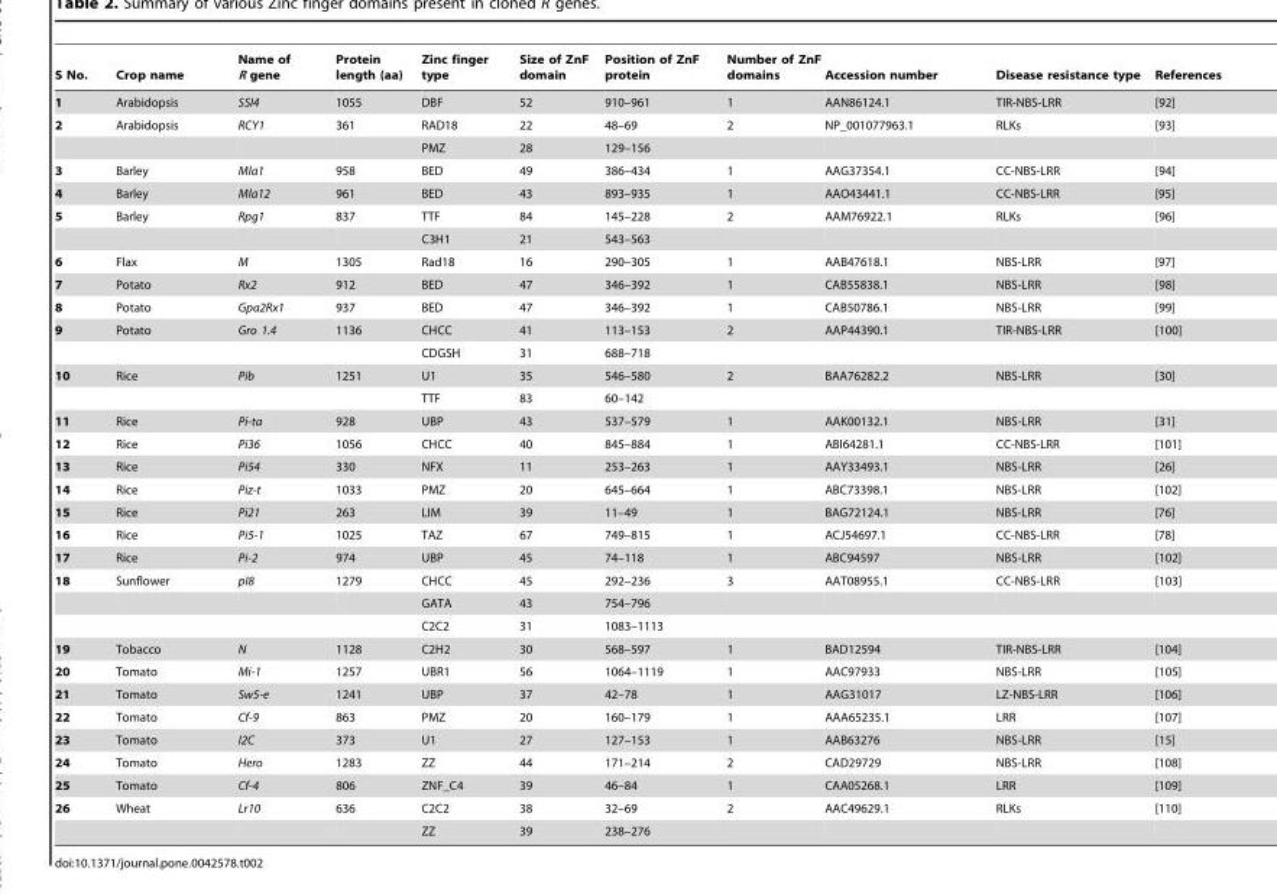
<table><thead><tr><td>S No.</td><td>Crop name</td><td>Name of R gene</td><td>Protein length (aa)</td><td>Zinc finger type</td><td>Size of ZnF domain</td><td>Position of ZnF protein</td><td>Number of ZnF domains</td><td>Accession number</td><td>Disease resistance type</td><td>References</td></tr></thead><tbody><tr><td>1</td><td>Arabidopsis</td><td>SSI4</td><td>1055</td><td>DBF</td><td>52</td><td>910–961</td><td>1</td><td>AAN86124.1</td><td>TIR-NBS-LRR</td><td>[92]</td></tr><tr><td rowspan="2">2</td><td>Arabidopsis</td><td>RCY1</td><td>361</td><td>RAD18</td><td>22</td><td>48–69</td><td>2</td><td>NP_001077963.1</td><td>RLKs</td><td>[93]</td></tr><tr><td></td><td></td><td></td><td>PMZ</td><td>28</td><td>129–156</td><td></td><td></td><td></td><td></td></tr><tr><td>3</td><td>Barley</td><td>Mla1</td><td>958</td><td>BED</td><td>49</td><td>386–434</td><td>1</td><td>AAG37354.1</td><td>CC-NBS-LRR</td><td>[94]</td></tr><tr><td>4</td><td>Barley</td><td>Mla12</td><td>961</td><td>BED</td><td>43</td><td>893–935</td><td>1</td><td>AAO43441.1</td><td>CC-NBS-LRR</td><td>[95]</td></tr><tr><td rowspan="2">5</td><td>Barley</td><td>Rpg1</td><td>837</td><td>TTF</td><td>84</td><td>145–228</td><td>2</td><td>AAM76922.1</td><td>RLKs</td><td>[96]</td></tr><tr><td></td><td></td><td></td><td>C3H1</td><td>21</td><td>543–563</td><td></td><td></td><td></td><td></td></tr><tr><td>6</td><td>Flax</td><td>M</td><td>1305</td><td>Rad18</td><td>16</td><td>290–305</td><td>1</td><td>AAB47618.1</td><td>NBS-LRR</td><td>[97]</td></tr><tr><td>7</td><td>Potato</td><td>Rx2</td><td>912</td><td>BED</td><td>47</td><td>346–392</td><td>1</td><td>CAB55838.1</td><td>NBS-LRR</td><td>[98]</td></tr><tr><td>8</td><td>Potato</td><td>Gpa2Rx1</td><td>937</td><td>BED</td><td>47</td><td>346–392</td><td>1</td><td>CAB50786.1</td><td>NBS-LRR</td><td>[99]</td></tr><tr><td rowspan="2">9</td><td>Potato</td><td>Gro 1.4</td><td>1136</td><td>CHCC</td><td>41</td><td>113–153</td><td>2</td><td>AAP44390.1</td><td>TIR-NBS-LRR</td><td>[100]</td></tr><tr><td></td><td></td><td></td><td>CDGSH</td><td>31</td><td>688–718</td><td></td><td></td><td></td><td></td></tr><tr><td rowspan="2">10</td><td>Rice</td><td>Pib</td><td>1251</td><td>U1</td><td>35</td><td>546–580</td><td>2</td><td>BAA76282.2</td><td>NBS-LRR</td><td>[30]</td></tr><tr><td></td><td></td><td></td><td>TTF</td><td>83</td><td>60–142</td><td></td><td></td><td></td><td></td></tr><tr><td>11</td><td>Rice</td><td>Pi-ta</td><td>928</td><td>UBP</td><td>43</td><td>537–579</td><td>1</td><td>AAK00132.1</td><td>NBS-LRR</td><td>[31]</td></tr><tr><td>12</td><td>Rice</td><td>Pi36</td><td>1056</td><td>CHCC</td><td>40</td><td>845–884</td><td>1</td><td>ABI64281.1</td><td>CC-NBS-LRR</td><td>[101]</td></tr><tr><td>13</td><td>Rice</td><td>Pi54</td><td>330</td><td>NFX</td><td>11</td><td>253–263</td><td>1</td><td>AAY33493.1</td><td>NBS-LRR</td><td>[26]</td></tr><tr><td>14</td><td>Rice</td><td>Piz-t</td><td>1033</td><td>PMZ</td><td>20</td><td>645–664</td><td>1</td><td>ABC73398.1</td><td>NBS-LRR</td><td>[102]</td></tr><tr><td>15</td><td>Rice</td><td>Pi21</td><td>263</td><td>LIM</td><td>39</td><td>11–49</td><td>1</td><td>BAG72124.1</td><td>NBS-LRR</td><td>[76]</td></tr><tr><td>16</td><td>Rice</td><td>Pi5-1</td><td>1025</td><td>TAZ</td><td>67</td><td>749–815</td><td>1</td><td>ACJ54697.1</td><td>CC-NBS-LRR</td><td>[78]</td></tr><tr><td>17</td><td>Rice</td><td>Pi-2</td><td>974</td><td>UBP</td><td>45</td><td>74–118</td><td>1</td><td>ABC94597</td><td>NBS-LRR</td><td>[102]</td></tr><tr><td rowspan="3">18</td><td>Sunflower</td><td>pI8</td><td>1279</td><td>CHCC</td><td>45</td><td>292–236</td><td>3</td><td>AAT08955.1</td><td>CC-NBS-LRR</td><td>[103]</td></tr><tr><td></td><td></td><td></td><td>GATA</td><td>43</td><td>754–796</td><td></td><td></td><td></td><td></td></tr><tr><td></td><td></td><td></td><td>C2C2</td><td>31</td><td>1083–1113</td><td></td><td></td><td></td><td></td></tr><tr><td>19</td><td>Tobacco</td><td>N</td><td>1128</td><td>C2H2</td><td>30</td><td>568–597</td><td>1</td><td>BAD12594</td><td>TIR-NBS-LRR</td><td>[104]</td></tr><tr><td>20</td><td>Tomato</td><td>Mi-1</td><td>1257</td><td>UBR1</td><td>56</td><td>1064–1119</td><td>1</td><td>AAC97933</td><td>NBS-LRR</td><td>[105]</td></tr><tr><td>21</td><td>Tomato</td><td>Sw5-e</td><td>1241</td><td>UBP</td><td>37</td><td>42–78</td><td>1</td><td>AAG31017</td><td>LZ-NBS-LRR</td><td>[106]</td></tr><tr><td>22</td><td>Tomato</td><td>Cf-9</td><td>863</td><td>PMZ</td><td>20</td><td>160–179</td><td>1</td><td>AAA65235.1</td><td>LRR</td><td>[107]</td></tr><tr><td>23</td><td>Tomato</td><td>I2C</td><td>373</td><td>U1</td><td>27</td><td>127–153</td><td>1</td><td>AAB63276</td><td>NBS-LRR</td><td>[15]</td></tr><tr><td>24</td><td>Tomato</td><td>Hero</td><td>1283</td><td>ZZ</td><td>44</td><td>171–214</td><td>2</td><td>CAD29729</td><td>NBS-LRR</td><td>[108]</td></tr><tr><td>25</td><td>Tomato</td><td>Cf-4</td><td>806</td><td>ZNF_C4</td><td>39</td><td>46–84</td><td>1</td><td>CAA05268.1</td><td>LRR</td><td>[109]</td></tr><tr><td rowspan="2">26</td><td>Wheat</td><td>Lr10</td><td>636</td><td>C2C2</td><td>38</td><td>32–69</td><td>2</td><td>AAC49629.1</td><td>RLKs</td><td>[110]</td></tr><tr><td></td><td></td><td></td><td>ZZ</td><td>39</td><td>238–276</td><td></td><td></td><td></td><td></td></tr></tbody></table>